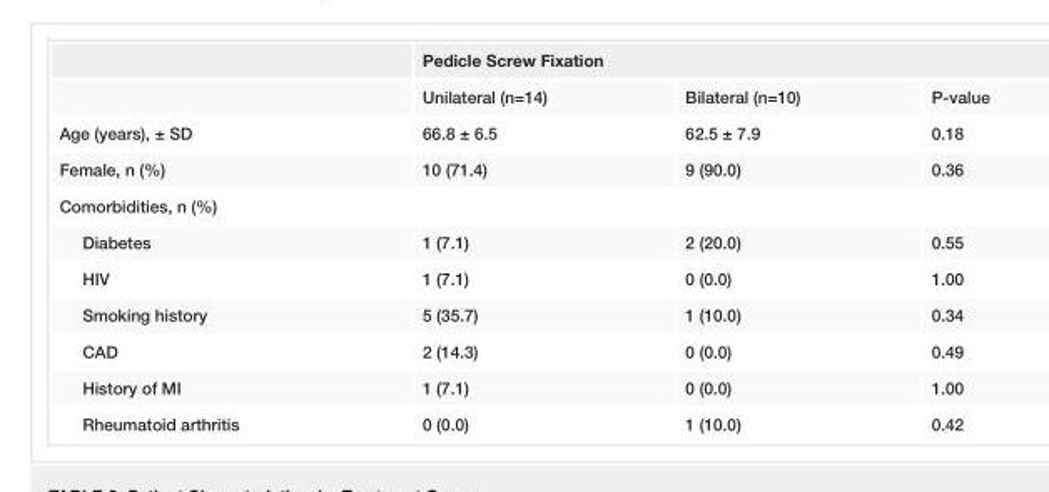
<table><thead><tr><td rowspan="2"></td><td colspan="3">Pedicle Screw Fixation</td></tr><tr><td>Unilateral (n=14)</td><td>Bilateral (n=10)</td><td>P-value</td></tr></thead><tbody><tr><td>Age (years), ± SD</td><td>66.8 ± 6.5</td><td>62.5 ± 7.9</td><td>0.18</td></tr><tr><td>Female, n (%)</td><td>10 (71.4)</td><td>9 (90.0)</td><td>0.36</td></tr><tr><td colspan="4">Comorbidities, n (%)</td></tr><tr><td>Diabetes</td><td>1 (7.1)</td><td>2 (20.0)</td><td>0.55</td></tr><tr><td>HIV</td><td>1 (7.1)</td><td>0 (0.0)</td><td>1.00</td></tr><tr><td>Smoking history</td><td>5 (35.7)</td><td>1 (10.0)</td><td>0.34</td></tr><tr><td>CAD</td><td>2 (14.3)</td><td>0 (0.0)</td><td>0.49</td></tr><tr><td>History of MI</td><td>1 (7.1)</td><td>0 (0.0)</td><td>1.00</td></tr><tr><td>Rheumatoid arthritis</td><td>0 (0.0)</td><td>1 (10.0)</td><td>0.42</td></tr></tbody></table>